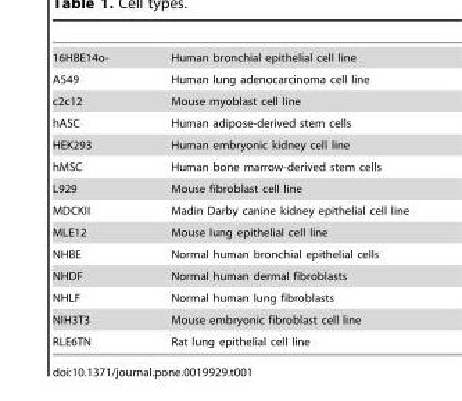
<table><tbody><tr><td>16HBE14o-</td><td>Human bronchial epithelial cell line</td></tr><tr><td>A549</td><td>Human lung adenocarcinoma cell line</td></tr><tr><td>c2c12</td><td>Mouse myoblast cell line</td></tr><tr><td>hASC</td><td>Human adipose-derived stem cells</td></tr><tr><td>HEK293</td><td>Human embryonic kidney cell line</td></tr><tr><td>hMSC</td><td>Human bone marrow-derived stem cells</td></tr><tr><td>L929</td><td>Mouse fibroblast cell line</td></tr><tr><td>MDCKII</td><td>Madin Darby canine kidney epithelial cell line</td></tr><tr><td>MLE12</td><td>Mouse lung epithelial cell line</td></tr><tr><td>NHBE</td><td>Normal human bronchial epithelial cells</td></tr><tr><td>NHDF</td><td>Normal human dermal fibroblasts</td></tr><tr><td>NHLF</td><td>Normal human lung fibroblasts</td></tr><tr><td>NIH3T3</td><td>Mouse embryonic fibroblast cell line</td></tr><tr><td>RLE6TN</td><td>Rat lung epithelial cell line</td></tr></tbody></table>